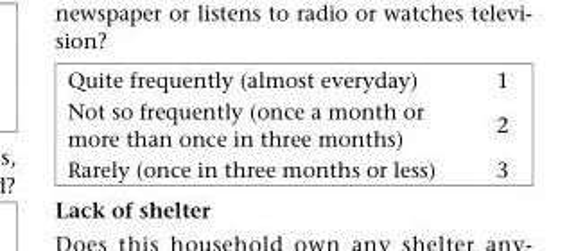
<table><tbody><tr><td>Quite frequently (almost everyday)</td><td>1</td></tr><tr><td>Not so frequently (once a month or more than once in three months)</td><td>2</td></tr><tr><td>Rarely (once in three months or less)</td><td>3</td></tr></tbody></table>